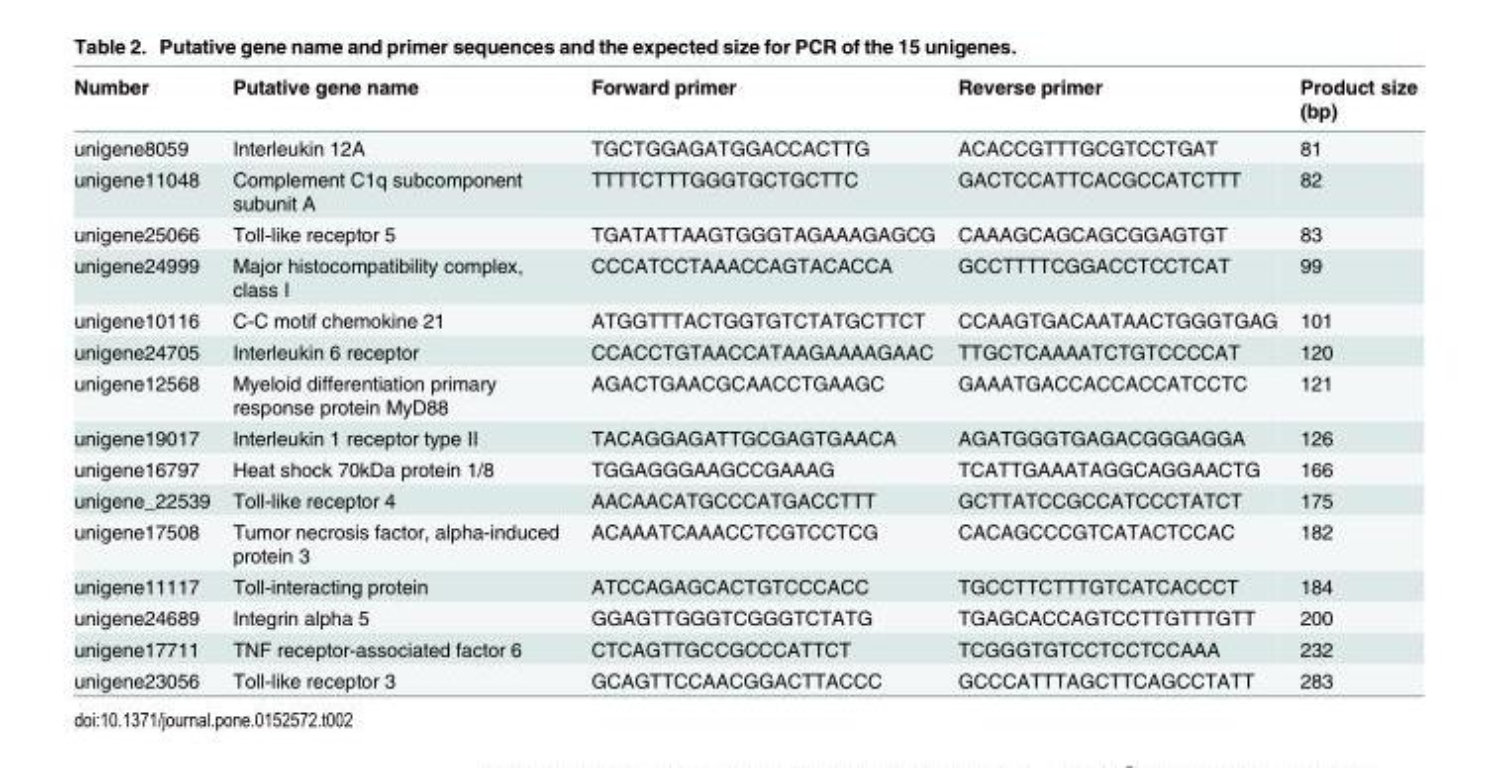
<table><thead><tr><td>Number</td><td>Putative gene name</td><td>Forward primer</td><td>Reverse primer</td><td>Product size (bp)</td></tr></thead><tbody><tr><td>unigene8059</td><td>Interleukin 12A</td><td>TGCTGGAGATGGACCACTTG</td><td>ACACCGTTTGCGTCCTGAT</td><td>81</td></tr><tr><td>unigene11048</td><td>Complement C1q subcomponent subunit A</td><td>TTTTCTTTGGGTGCTGCTTC</td><td>GACTCCATTCACGCCATCTTT</td><td>82</td></tr><tr><td>unigene25066</td><td>Toll-like receptor 5</td><td>TGATATTAAGTGGGTAGAAAGAGCG</td><td>CAAAGCAGCAGCGGAGTGT</td><td>83</td></tr><tr><td>unigene24999</td><td>Major histocompatibility complex, class I</td><td>CCCATCCTAAACCAGTACACCA</td><td>GCCTTTTCGGACCTCCTCAT</td><td>99</td></tr><tr><td>unigene10116</td><td>C-C motif chemokine 21</td><td>ATGGTTTACTGGTGTCTATGCTTCT</td><td>CCAAGTGACAATAACTGGGTGAG</td><td>101</td></tr><tr><td>unigene24705</td><td>Interleukin 6 receptor</td><td>CCACCTGTAACCATAAGAAAAGAAC</td><td>TTGCTCAAAATCTGTCCCCAT</td><td>120</td></tr><tr><td>unigene12568</td><td>Myeloid differentiation primary response protein MyD88</td><td>AGACTGAACGCAACCTGAAGC</td><td>GAAATGACCACCACCATCCTC</td><td>121</td></tr><tr><td>unigene19017</td><td>Interleukin 1 receptor type II</td><td>TACAGGAGATTGCGAGTGAACA</td><td>AGATGGGTGAGACGGGAGGA</td><td>126</td></tr><tr><td>unigene16797</td><td>Heat shock 70kDa protein 1/8</td><td>TGGAGGGAAGCCGAAAG</td><td>TCATTGAAATAGGCAGGAACTG</td><td>166</td></tr><tr><td>unigene_22539</td><td>Toll-like receptor 4</td><td>AACAACATGCCCATGACCTTT</td><td>GCTTATCCGCCATCCCTATCT</td><td>175</td></tr><tr><td>unigene17508</td><td>Tumor necrosis factor, alpha-induced protein 3</td><td>ACAAATCAAACCTCGTCCTCG</td><td>CACAGCCCGTCATACTCCAC</td><td>182</td></tr><tr><td>unigene11117</td><td>Toll-interacting protein</td><td>ATCCAGAGCACTGTCCCACC</td><td>TGCCTTCTTTGTCATCACCCT</td><td>184</td></tr><tr><td>unigene24689</td><td>Integrin alpha 5</td><td>GGAGTTGGGTCGGGTCTATG</td><td>TGAGCACCAGTCCTTGTTTGTT</td><td>200</td></tr><tr><td>unigene17711</td><td>TNF receptor-associated factor 6</td><td>CTCAGTTGCCGCCCATTCT</td><td>TCGGGTGTCCTCCTCCAAA</td><td>232</td></tr><tr><td>unigene23056</td><td>Toll-like receptor 3</td><td>GCAGTTCCAACGGACTTACCC</td><td>GCCCATTTAGCTTCAGCCTATT</td><td>283</td></tr></tbody></table>